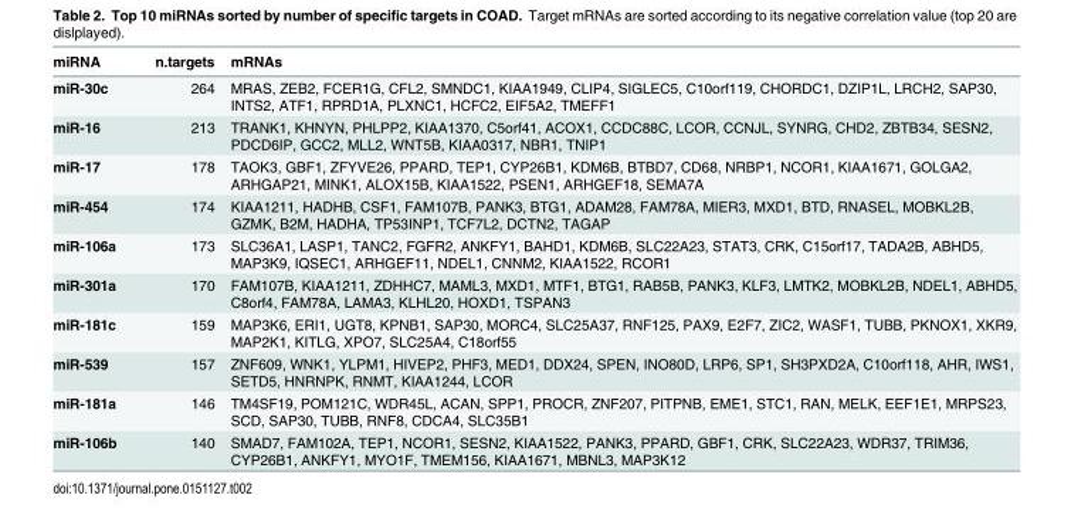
<table><thead><tr><td>miRNA</td><td>n.targets</td><td>mRNAs</td></tr></thead><tbody><tr><td>miR-30c</td><td>264</td><td>MRAS, ZEB2, FCER1G, CFL2, SMNDC1, KIAA1949, CLIP4, SIGLEC5, C10orf119, CHORDC1, DZIP1L, LRCH2, SAP30, INTS2, ATF1, RPRD1A, PLXNC1, HCFC2, EIF5A2, TMEFF1</td></tr><tr><td>miR-16</td><td>213</td><td>TRANK1, KHNYN, PHLPP2, KIAA1370, C5orf41, ACOX1, CCDC88C, LCOR, CCNJL, SYNRG, CHD2, ZBTB34, SESN2, PDCD6IP, GCC2, MLL2, WNT5B, KIAA0317, NBR1, TNIP1</td></tr><tr><td>miR-17</td><td>178</td><td>TAOK3, GBF1, ZFYVE26, PPARD, TEP1, CYP26B1, KDM6B, BTBD7, CD68, NRBP1, NCOR1, KIAA1671, GOLGA2, ARHGAP21, MINK1, ALOX15B, KIAA1522, PSEN1, ARHGEF18, SEMA7A</td></tr><tr><td>miR-454</td><td>174</td><td>KIAA1211, HADHB, CSF1, FAM107B, PANK3, BTG1, ADAM28, FAM78A, MIER3, MXD1, BTD, RNASEL, MOBKL2B, GZMK, B2M, HADHA, TP53INP1, TCF7L2, DCTN2, TAGAP</td></tr><tr><td>miR-106a</td><td>173</td><td>SLC36A1, LASP1, TANC2, FGFR2, ANKFY1, BAHD1, KDM6B, SLC22A23, STAT3, CRK, C15orf17, TADA2B, ABHD5, MAP3K9, IQSEC1, ARHGEF11, NDEL1, CNNM2, KIAA1522, RCOR1</td></tr><tr><td>miR-301a</td><td>170</td><td>FAM107B, KIAA1211, ZDHHC7, MAML3, MXD1, MTF1, BTG1, RAB5B, PANK3, KLF3, LMTK2, MOBKL2B, NDEL1, ABHD5, C8orf4, FAM78A, LAMA3, KLHL20, HOXD1, TSPAN3</td></tr><tr><td>miR-181c</td><td>159</td><td>MAP3K6, ERI1, UGT8, KPNB1, SAP30, MORC4, SLC25A37, RNF125, PAX9, E2F7, ZIC2, WASF1, TUBB, PKNOX1, XKR9, MAP2K1, KITLG, XPO7, SLC25A4, C18orf55</td></tr><tr><td>miR-539</td><td>157</td><td>ZNF609, WNK1, YLPM1, HIVEP2, PHF3, MED1, DDX24, SPEN, INO80D, LRP6, SP1, SH3PXD2A, C10orf118, AHR, IWS1, SETD5, HNRNPK, RNMT, KIAA1244, LCOR</td></tr><tr><td>miR-181a</td><td>146</td><td>TM4SF19, POM121C, WDR45L, ACAN, SPP1, PROCR, ZNF207, PITPNB, EME1, STC1, RAN, MELK, EEF1E1, MRPS23, SCD, SAP30, TUBB, RNF8, CDCA4, SLC35B1</td></tr><tr><td>miR-106b</td><td>140</td><td>SMAD7, FAM102A, TEP1, NCOR1, SESN2, KIAA1522, PANK3, PPARD, GBF1, CRK, SLC22A23, WDR37, TRIM36, CYP26B1, ANKFY1, MYO1F, TMEM156, KIAA1671, MBNL3, MAP3K12</td></tr></tbody></table>